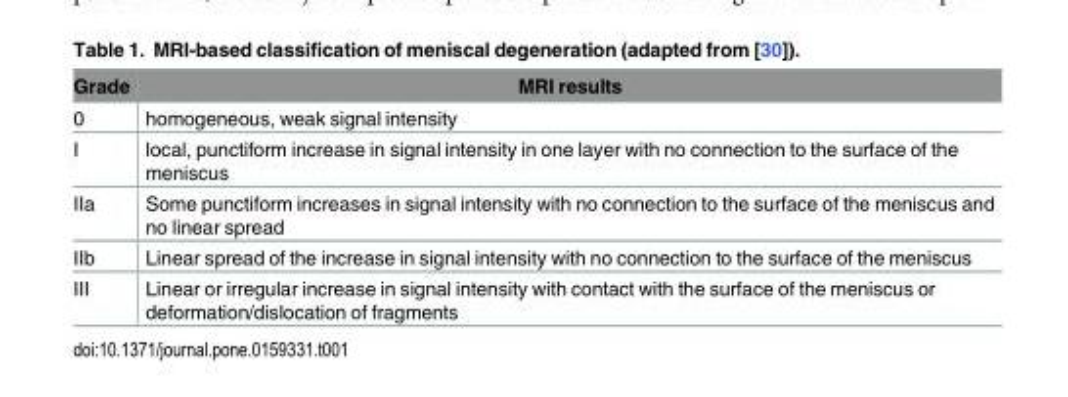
<table><thead><tr><td>Grade</td><td>MRI results</td></tr></thead><tbody><tr><td>0</td><td>homogeneous, weak signal intensity</td></tr><tr><td>I</td><td>local, punctiform increase in signal intensity in one layer with no connection to the surface of the meniscus</td></tr><tr><td>IIa</td><td>Some punctiform increases in signal intensity with no connection to the surface of the meniscus and no linear spread</td></tr><tr><td>IIb</td><td>Linear spread of the increase in signal intensity with no connection to the surface of the meniscus</td></tr><tr><td>III</td><td>Linear or irregular increase in signal intensity with contact with the surface of the meniscus or deformation/dislocation of fragments</td></tr></tbody></table>